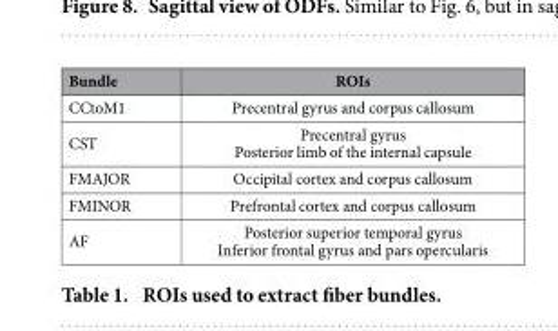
<table><thead><tr><td>Bundle</td><td>ROIs</td></tr></thead><tbody><tr><td>CCtoM1</td><td>Precentral gyrus and corpus callosum</td></tr><tr><td>CST</td><td>Precentral gyrus Posterior limb of the internal capsule</td></tr><tr><td>FMAJOR</td><td>Occipital cortex and corpus callosum</td></tr><tr><td>FMINOR</td><td>Prefrontal cortex and corpus callosum</td></tr><tr><td>AF</td><td>Posterior superior temporal gyrus Inferior frontal gyrus and pars opercularis</td></tr></tbody></table>